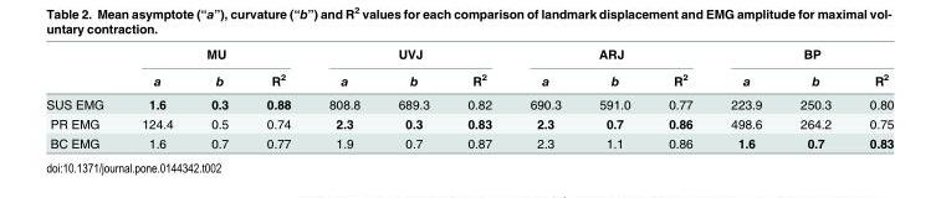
<table><thead><tr><td rowspan="2"></td><td colspan="3">MU</td><td colspan="3">UVJ</td><td colspan="3">ARJ</td><td colspan="3">BP</td></tr><tr><td>a</td><td>b</td><td>R<sup>2</sup></td><td>a</td><td>b</td><td>R<sup>2</sup></td><td>a</td><td>b</td><td>R<sup>2</sup></td><td>a</td><td>b</td><td>R<sup>2</sup></td></tr></thead><tbody><tr><td>SUS EMG</td><td>1.6</td><td>0.3</td><td>0.88</td><td>808.8</td><td>689.3</td><td>0.82</td><td>690.3</td><td>591.0</td><td>0.77</td><td>223.9</td><td>250.3</td><td>0.80</td></tr><tr><td>PR EMG</td><td>124.4</td><td>0.5</td><td>0.74</td><td>2.3</td><td>0.3</td><td>0.83</td><td>2.3</td><td>0.7</td><td>0.86</td><td>498.6</td><td>264.2</td><td>0.75</td></tr><tr><td>BC EMG</td><td>1.6</td><td>0.7</td><td>0.77</td><td>1.9</td><td>0.7</td><td>0.87</td><td>2.3</td><td>1.1</td><td>0.86</td><td>1.6</td><td>0.7</td><td>0.83</td></tr></tbody></table>